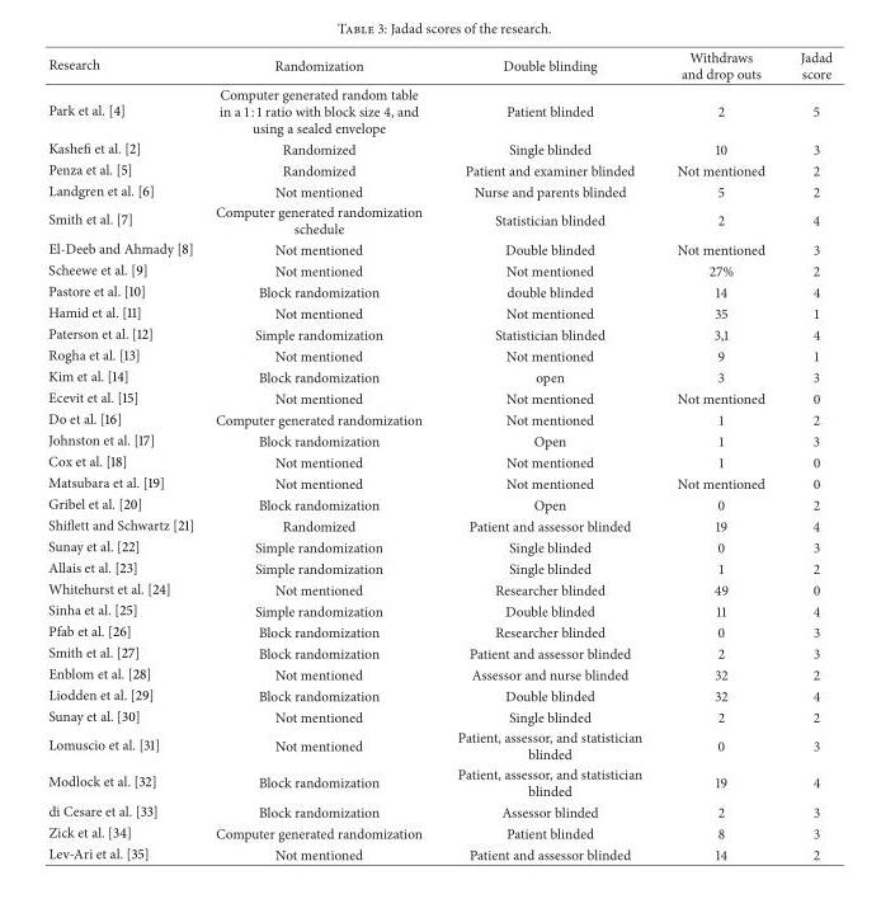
<table><thead><tr><td>Research</td><td>Randomization</td><td>Double blinding</td><td>Withdraws and drop outs</td><td>Jadad score</td></tr></thead><tbody><tr><td>Park et al. [4]</td><td>Computer generated random table in a 1 : 1 ratio with block size 4, and using a sealed envelope</td><td>Patient blinded</td><td>2</td><td>5</td></tr><tr><td>Kashefi et al. [2]</td><td>Randomized</td><td>Single blinded</td><td>10</td><td>3</td></tr><tr><td>Penza et al. [5]</td><td>Randomized</td><td>Patient and examiner blinded</td><td>Not mentioned</td><td>2</td></tr><tr><td>Landgren et al. [6]</td><td>Not mentioned</td><td>Nurse and parents blinded</td><td>5</td><td>2</td></tr><tr><td>Smith et al. [7]</td><td>Computer generated randomization schedule</td><td>Statistician blinded</td><td>2</td><td>4</td></tr><tr><td>El-Deeb and Ahmady [8]</td><td>Not mentioned</td><td>Double blinded</td><td>Not mentioned</td><td>3</td></tr><tr><td>Scheewe et al. [9]</td><td>Not mentioned</td><td>Not mentioned</td><td>27%</td><td>2</td></tr><tr><td>Pastore et al. [10]</td><td>Block randomization</td><td>double blinded</td><td>14</td><td>4</td></tr><tr><td>Hamid et al. [11]</td><td>Not mentioned</td><td>Not mentioned</td><td>35</td><td>1</td></tr><tr><td>Paterson et al. [12]</td><td>Simple randomization</td><td>Statistician blinded</td><td>3,1</td><td>4</td></tr><tr><td>Rogha et al. [13]</td><td>Not mentioned</td><td>Not mentioned</td><td>9</td><td>1</td></tr><tr><td>Kim et al. [14]</td><td>Block randomization</td><td>open</td><td>3</td><td>3</td></tr><tr><td>Ecevit et al. [15]</td><td>Not mentioned</td><td>Not mentioned</td><td>Not mentioned</td><td>0</td></tr><tr><td>Do et al. [16]</td><td>Computer generated randomization</td><td>Not mentioned</td><td>1</td><td>2</td></tr><tr><td>Johnston et al. [17]</td><td>Block randomization</td><td>Open</td><td>1</td><td>3</td></tr><tr><td>Cox et al. [18]</td><td>Not mentioned</td><td>Not mentioned</td><td>1</td><td>0</td></tr><tr><td>Matsubara et al. [19]</td><td>Not mentioned</td><td>Not mentioned</td><td>Not mentioned</td><td>0</td></tr><tr><td>Gribel et al. [20]</td><td>Block randomization</td><td>Open</td><td>0</td><td>2</td></tr><tr><td>Shiflett and Schwartz [21]</td><td>Randomized</td><td>Patient and assessor blinded</td><td>19</td><td>4</td></tr><tr><td>Sunay et al. [22]</td><td>Simple randomization</td><td>Single blinded</td><td>0</td><td>3</td></tr><tr><td>Allais et al. [23]</td><td>Simple randomization</td><td>Single blinded</td><td>1</td><td>2</td></tr><tr><td>Whitehurst et al. [24]</td><td>Not mentioned</td><td>Researcher blinded</td><td>49</td><td>0</td></tr><tr><td>Sinha et al. [25]</td><td>Simple randomization</td><td>Double blinded</td><td>11</td><td>4</td></tr><tr><td>Pfab et al. [26]</td><td>Block randomization</td><td>Researcher blinded</td><td>0</td><td>3</td></tr><tr><td>Smith et al. [27]</td><td>Block randomization</td><td>Patient and assessor blinded</td><td>2</td><td>3</td></tr><tr><td>Enblom et al. [28]</td><td>Not mentioned</td><td>Assessor and nurse blinded</td><td>32</td><td>2</td></tr><tr><td>Liodden et al. [29]</td><td>Block randomization</td><td>Double blinded</td><td>32</td><td>4</td></tr><tr><td>Sunay et al. [30]</td><td>Not mentioned</td><td>Single blinded</td><td>2</td><td>2</td></tr><tr><td>Lomuscio et al. [31]</td><td>Not mentioned</td><td>Patient, assessor, and statistician blinded</td><td>0</td><td>3</td></tr><tr><td>Modlock et al. [32]</td><td>Block randomization</td><td>Patient, assessor, and statistician blinded</td><td>19</td><td>4</td></tr><tr><td>di Cesare et al. [33]</td><td>Block randomization</td><td>Assessor blinded</td><td>2</td><td>3</td></tr><tr><td>Zick et al. [34]</td><td>Computer generated randomization</td><td>Patient blinded</td><td>8</td><td>3</td></tr><tr><td>Lev-Ari et al. [35]</td><td>Not mentioned</td><td>Patient and assessor blinded</td><td>14</td><td>2</td></tr></tbody></table>